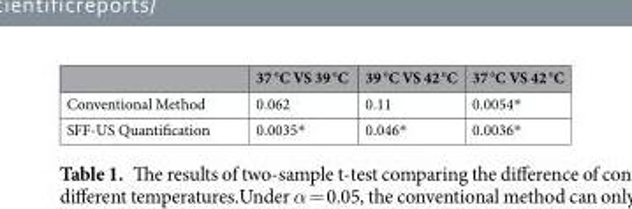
<table><thead><tr><td></td><td>37 °C VS 39 °C</td><td>39 °C VS 42 °C</td><td>37 °C VS 42 °C</td></tr></thead><tbody><tr><td>Conventional Method</td><td>0.062</td><td>0.11</td><td>0.0054*</td></tr><tr><td>SFF-US Quantification</td><td>0.0035*</td><td>0.046*</td><td>0.0036*</td></tr></tbody></table>